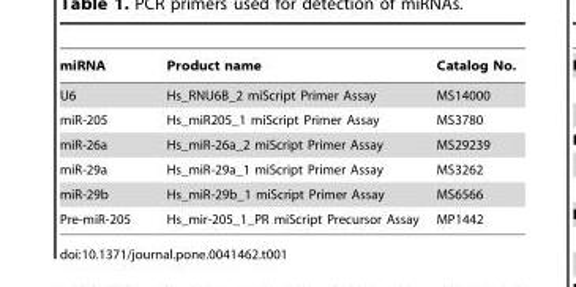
<table><thead><tr><td>miRNA</td><td>Product name</td><td>Catalog No.</td></tr></thead><tbody><tr><td>U6</td><td>Hs_RNU6B_2 miScript Primer Assay</td><td>MS14000</td></tr><tr><td>miR-205</td><td>Hs_miR205_1 miScript Primer Assay</td><td>MS3780</td></tr><tr><td>miR-26a</td><td>Hs_miR-26a_2 miScript Primer Assay</td><td>MS29239</td></tr><tr><td>miR-29a</td><td>Hs_miR-29a_1 miScript Primer Assay</td><td>MS3262</td></tr><tr><td>miR-29b</td><td>Hs_miR-29b_1 miScript Primer Assay</td><td>MS6566</td></tr><tr><td>Pre-miR-205</td><td>Hs_mir-205_1_PR miScript Precursor Assay</td><td>MP1442</td></tr></tbody></table>